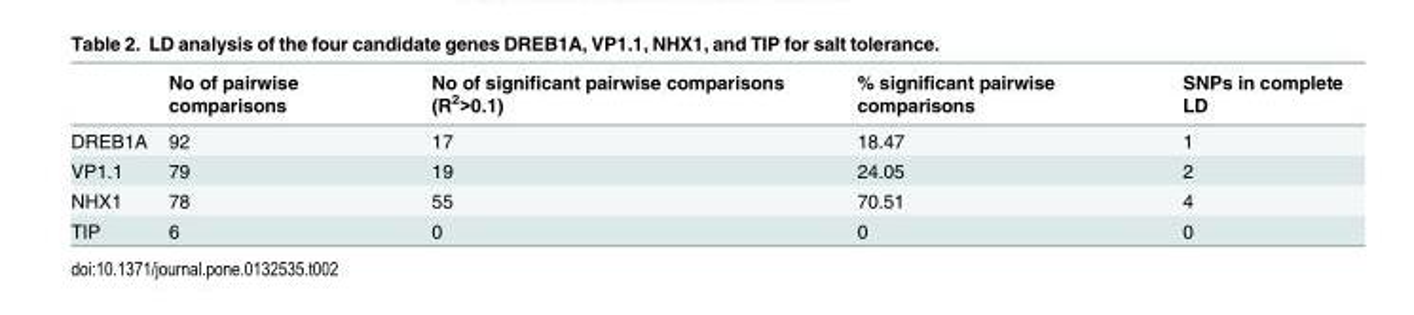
<table><thead><tr><td></td><td>No of pairwise comparisons</td><td>No of significant pairwise comparisons (R<sup>2</sup>&gt;0.1)</td><td>% significant pairwise comparisons</td><td>SNPs in complete LD</td></tr></thead><tbody><tr><td>DREB1A</td><td>92</td><td>17</td><td>18.47</td><td>1</td></tr><tr><td>VP1.1</td><td>79</td><td>19</td><td>24.05</td><td>2</td></tr><tr><td>NHX1</td><td>78</td><td>55</td><td>70.51</td><td>4</td></tr><tr><td>TIP</td><td>6</td><td>0</td><td>0</td><td>0</td></tr></tbody></table>